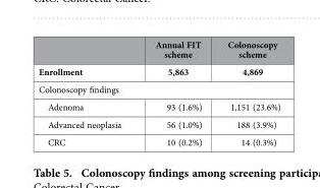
<table><thead><tr><td></td><td>Annual FIT scheme</td><td>Colonoscopy scheme</td></tr></thead><tbody><tr><td>Enrollment</td><td>5,863</td><td>4,869</td></tr><tr><td colspan="3">Colonoscopy findings</td></tr><tr><td>Adenoma</td><td>93 (1.6%)</td><td>1,151 (23.6%)</td></tr><tr><td>Advanced neoplasia</td><td>56 (1.0%)</td><td>188 (3.9%)</td></tr><tr><td>CRC</td><td>10 (0.2%)</td><td>14 (0.3%)</td></tr></tbody></table>